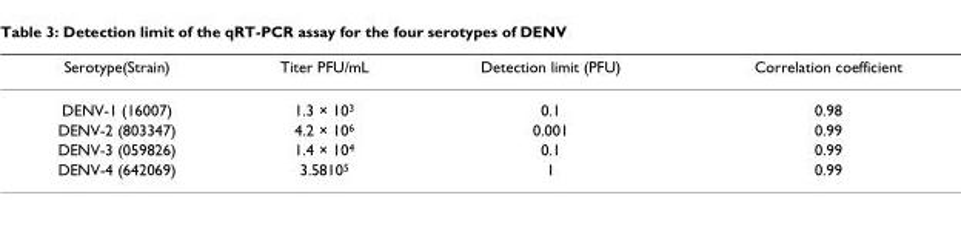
<table><thead><tr><td>Serotype(Strain)</td><td>Titer PFU/mL</td><td>Detection limit (PFU)</td><td>Correlation coefficient</td></tr></thead><tbody><tr><td>DENV-1 (16007)</td><td>1.3 × 10<sup>3</sup></td><td>0.1</td><td>0.98</td></tr><tr><td>DENV-2 (803347)</td><td>4.2 × 10<sup>6</sup></td><td>0.001</td><td>0.99</td></tr><tr><td>DENV-3 (059826)</td><td>1.4 × 10<sup>4</sup></td><td>0.1</td><td>0.99</td></tr><tr><td>DENV-4 (642069)</td><td>3.5810<sup>5</sup></td><td>1</td><td>0.99</td></tr></tbody></table>